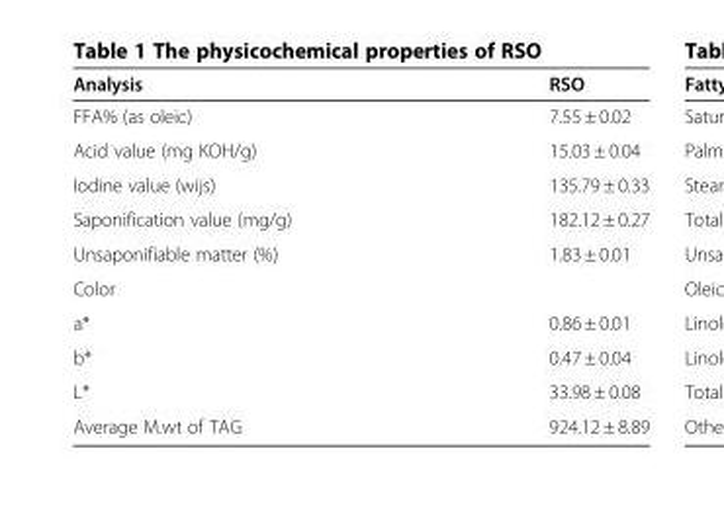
<table><thead><tr><td>Analysis</td><td>RSO</td></tr></thead><tbody><tr><td>FFA% (as oleic)</td><td>7.55 ± 0.02</td></tr><tr><td>Acid value (mg KOH/g)</td><td>15.03 ± 0.04</td></tr><tr><td>Iodine value (wijs)</td><td>135.79 ± 0.33</td></tr><tr><td>Saponification value (mg/g)</td><td>182.12 ± 0.27</td></tr><tr><td>Unsaponifiable matter (%)</td><td>1.83 ± 0.01</td></tr><tr><td colspan="2">Color</td></tr><tr><td>a*</td><td>0.86 ± 0.01</td></tr><tr><td>b*</td><td>0.47 ± 0.04</td></tr><tr><td>L*</td><td>33.98 ± 0.08</td></tr><tr><td>Average M.wt of TAG</td><td>924.12 ± 8.89</td></tr></tbody></table>